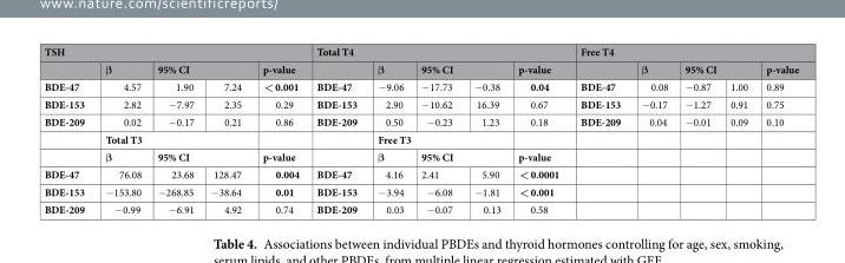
<table><thead><tr><td colspan="5">TSH</td><td colspan="5">Total T4</td><td colspan="5">Free T4</td></tr><tr><td rowspan="2">BDE-47</td><td rowspan="2">β 4.57</td><td colspan="2">95% CI</td><td rowspan="2">p-value &lt; 0.001</td><td rowspan="2">BDE-47</td><td rowspan="2">β −9.06</td><td colspan="2">95% CI</td><td rowspan="2">p-value 0.04</td><td rowspan="2">BDE-47</td><td rowspan="2">β 0.08</td><td colspan="2">95% CI</td><td rowspan="2">p-value 0.89</td></tr><tr><td>1.90</td><td>7.24</td><td>−17.73</td><td>−0.38</td><td>−0.87</td><td>1.00</td></tr></thead><tbody><tr><td>BDE-153</td><td>2.82</td><td>−7.97</td><td>2.35</td><td>0.29</td><td>BDE-153</td><td>2.90</td><td>−10.62</td><td>16.39</td><td>0.67</td><td>BDE-153</td><td>−0.17</td><td>−1.27</td><td>0.91</td><td>0.75</td></tr><tr><td rowspan="3">BDE-209</td><td>0.02</td><td>−0.17</td><td>0.21</td><td>0.86</td><td>BDE-209</td><td>0.50</td><td>−0.23</td><td>1.23</td><td>0.18</td><td>BDE-209</td><td>0.04</td><td>−0.01</td><td>0.09</td><td>0.10</td></tr><tr><td colspan="3">Total T3</td><td></td><td></td><td colspan="3">Free T3</td><td></td><td></td><td></td><td></td><td></td><td></td></tr><tr><td>β</td><td colspan="2">95% CI</td><td>p-value</td><td></td><td>β</td><td colspan="2">95% CI</td><td>p-value</td><td></td><td></td><td></td><td></td><td></td></tr><tr><td>BDE-47</td><td>76.08</td><td>23.68</td><td>128.47</td><td>0.004</td><td>BDE-47</td><td>4.16</td><td>2.41</td><td>5.90</td><td>&lt; 0.0001</td><td></td><td></td><td></td><td></td><td></td></tr><tr><td>BDE-153</td><td>−153.80</td><td>−268.85</td><td>−38.64</td><td>0.01</td><td>BDE-153</td><td>−3.94</td><td>−6.08</td><td>−1.81</td><td>&lt; 0.001</td><td></td><td></td><td></td><td></td><td></td></tr><tr><td>BDE-209</td><td>−0.99</td><td>−6.91</td><td>4.92</td><td>0.74</td><td>BDE-209</td><td>0.03</td><td>−0.07</td><td>0.13</td><td>0.58</td><td></td><td></td><td></td><td></td><td></td></tr></tbody></table>